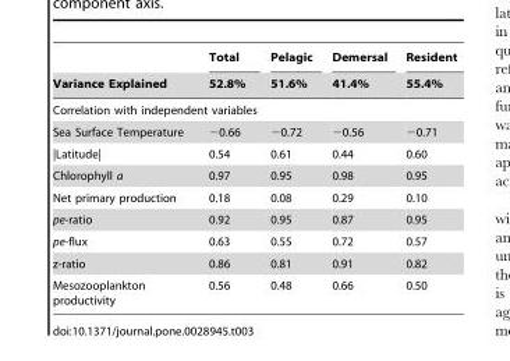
<table><thead><tr><td rowspan="2">Variance Explained</td><td rowspan="2">Total 52.8%</td><td rowspan="2">Pelagic 51.6%</td><td rowspan="2">Demersal 41.4%</td><td rowspan="2">Resident 55.4%</td></tr><tr></tr></thead><tbody><tr><td colspan="5">Correlation with independent variables</td></tr><tr><td>Sea Surface Temperature</td><td>−0.66</td><td>−0.72</td><td>−0.56</td><td>−0.71</td></tr><tr><td>|Latitude|</td><td>0.54</td><td>0.61</td><td>0.44</td><td>0.60</td></tr><tr><td>Chlorophyll a</td><td>0.97</td><td>0.95</td><td>0.98</td><td>0.95</td></tr><tr><td>Net primary production</td><td>0.18</td><td>0.08</td><td>0.29</td><td>0.10</td></tr><tr><td>pe-ratio</td><td>0.92</td><td>0.95</td><td>0.87</td><td>0.95</td></tr><tr><td>pe-flux</td><td>0.63</td><td>0.55</td><td>0.72</td><td>0.57</td></tr><tr><td>z-ratio</td><td>0.86</td><td>0.81</td><td>0.91</td><td>0.82</td></tr><tr><td>Mesozooplankton productivity</td><td>0.56</td><td>0.48</td><td>0.66</td><td>0.50</td></tr></tbody></table>